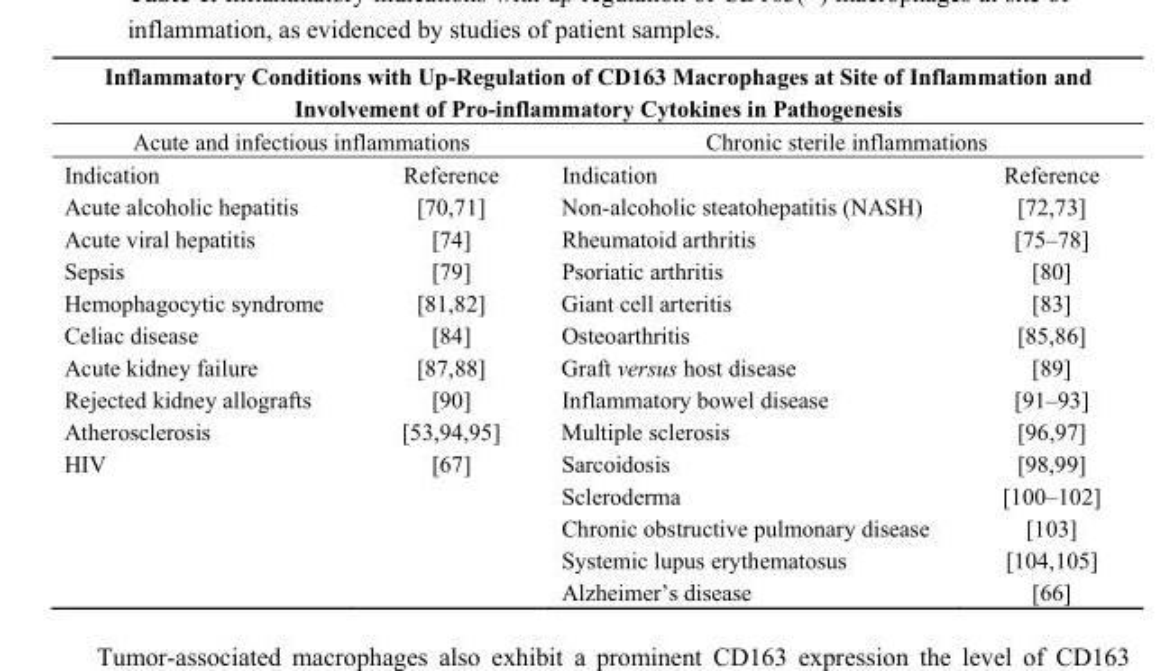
<table><thead><tr><td colspan="4">Inflammatory Conditions with Up-Regulation of CD163 Macrophages at Site of Inflammation and Involvement of Pro-inflammatory Cytokines in Pathogenesis</td></tr><tr><td colspan="2">Acute and infectious inflammations</td><td colspan="2">Chronic sterile inflammations</td></tr><tr><td>Indication</td><td>Reference</td><td>Indication</td><td>Reference</td></tr></thead><tbody><tr><td>Acute alcoholic hepatitis</td><td>[70,71]</td><td>Non-alcoholic steatohepatitis (NASH)</td><td>[72,73]</td></tr><tr><td>Acute viral hepatitis</td><td>[74]</td><td>Rheumatoid arthritis</td><td>[75–78]</td></tr><tr><td>Sepsis</td><td>[79]</td><td>Psoriatic arthritis</td><td>[80]</td></tr><tr><td>Hemophagocytic syndrome</td><td>[81,82]</td><td>Giant cell arteritis</td><td>[83]</td></tr><tr><td>Celiac disease</td><td>[84]</td><td>Osteoarthritis</td><td>[85,86]</td></tr><tr><td>Acute kidney failure</td><td>[87,88]</td><td>Graft versus host disease</td><td>[89]</td></tr><tr><td>Rejected kidney allografts</td><td>[90]</td><td>Inflammatory bowel disease</td><td>[91–93]</td></tr><tr><td>Atherosclerosis</td><td>[53,94,95]</td><td>Multiple sclerosis</td><td>[96,97]</td></tr><tr><td rowspan="5">HIV</td><td>[67]</td><td>Sarcoidosis</td><td>[98,99]</td></tr><tr><td></td><td>Scleroderma</td><td>[100–102]</td></tr><tr><td></td><td>Chronic obstructive pulmonary disease</td><td>[103]</td></tr><tr><td></td><td>Systemic lupus erythematosus</td><td>[104,105]</td></tr><tr><td></td><td>Alzheimer’s disease</td><td>[66]</td></tr></tbody></table>